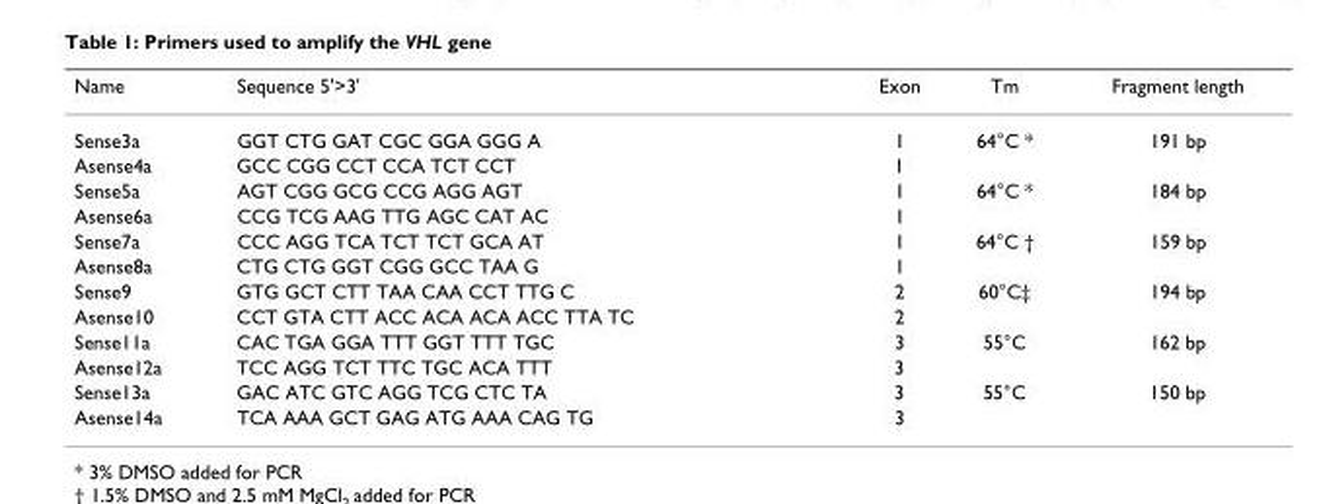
<table><thead><tr><td>Name</td><td>Sequence 5&#x27;&gt;3&#x27;</td><td>Exon</td><td>Tm</td><td>Fragment length</td></tr></thead><tbody><tr><td>Sense3a</td><td>GGT CTG GAT CGC GGA GGG A</td><td>1</td><td>64°C *</td><td>191 bp</td></tr><tr><td>Asense4a</td><td>GCC CGG CCT CCA TCT CCT</td><td>1</td><td></td><td></td></tr><tr><td>Sense5a</td><td>AGT CGG GCG CCG AGG AGT</td><td>1</td><td>64°C *</td><td>184 bp</td></tr><tr><td>Asense6a</td><td>CCG TCG AAG TTG AGC CAT AC</td><td>1</td><td></td><td></td></tr><tr><td>Sense7a</td><td>CCC AGG TCA TCT TCT GCA AT</td><td>1</td><td>64°C †</td><td>159 bp</td></tr><tr><td>Asense8a</td><td>CTG CTG GGT CGG GCC TAA G</td><td>1</td><td></td><td></td></tr><tr><td>Sense9</td><td>GTG GCT CTT TAA CAA CCT TTG C</td><td>2</td><td>60°C‡</td><td>194 bp</td></tr><tr><td>Asense10</td><td>CCT GTA CTT ACC ACA ACA ACC TTA TC</td><td>2</td><td></td><td></td></tr><tr><td>Sense11a</td><td>CAC TGA GGA TTT GGT TTT TGC</td><td>3</td><td>55°C</td><td>162 bp</td></tr><tr><td>Asense12a</td><td>TCC AGG TCT TTC TGC ACA TTT</td><td>3</td><td></td><td></td></tr><tr><td>Sense13a</td><td>GAC ATC GTC AGG TCG CTC TA</td><td>3</td><td>55°C</td><td>150 bp</td></tr><tr><td>Asense14a</td><td>TCA AAA GCT GAG ATG AAA CAG TG</td><td>3</td><td></td><td></td></tr></tbody></table>